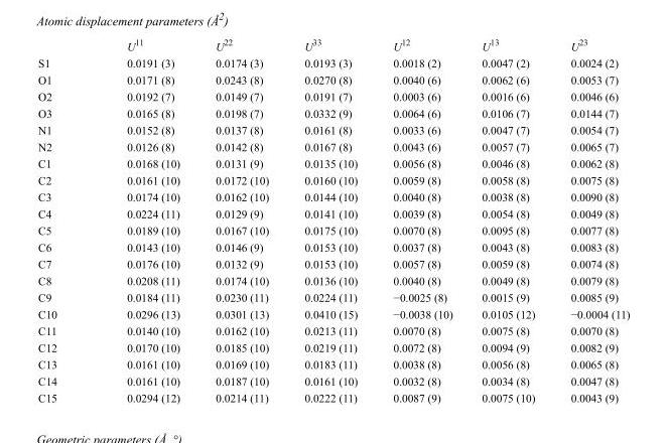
<table><thead><tr><td></td><td>U<sup>11</sup></td><td>U<sup>22</sup></td><td>U<sup>33</sup></td><td>U<sup>12</sup></td><td>U<sup>13</sup></td><td>U<sup>23</sup></td></tr></thead><tbody><tr><td>S1</td><td>0.0191 (3)</td><td>0.0174 (3)</td><td>0.0193 (3)</td><td>0.0018 (2)</td><td>0.0047 (2)</td><td>0.0024 (2)</td></tr><tr><td>O1</td><td>0.0171 (8)</td><td>0.0243 (8)</td><td>0.0270 (8)</td><td>0.0040 (6)</td><td>0.0062 (6)</td><td>0.0053 (7)</td></tr><tr><td>O2</td><td>0.0192 (7)</td><td>0.0149 (7)</td><td>0.0191 (7)</td><td>0.0003 (6)</td><td>0.0016 (6)</td><td>0.0046 (6)</td></tr><tr><td>O3</td><td>0.0165 (8)</td><td>0.0198 (7)</td><td>0.0332 (9)</td><td>0.0064 (6)</td><td>0.0106 (7)</td><td>0.0144 (7)</td></tr><tr><td>N1</td><td>0.0152 (8)</td><td>0.0137 (8)</td><td>0.0161 (8)</td><td>0.0033 (6)</td><td>0.0047 (7)</td><td>0.0054 (7)</td></tr><tr><td>N2</td><td>0.0126 (8)</td><td>0.0142 (8)</td><td>0.0167 (8)</td><td>0.0043 (6)</td><td>0.0057 (7)</td><td>0.0065 (7)</td></tr><tr><td>C1</td><td>0.0168 (10)</td><td>0.0131 (9)</td><td>0.0135 (10)</td><td>0.0056 (8)</td><td>0.0046 (8)</td><td>0.0062 (8)</td></tr><tr><td>C2</td><td>0.0161 (10)</td><td>0.0172 (10)</td><td>0.0160 (10)</td><td>0.0059 (8)</td><td>0.0058 (8)</td><td>0.0075 (8)</td></tr><tr><td>C3</td><td>0.0174 (10)</td><td>0.0162 (10)</td><td>0.0144 (10)</td><td>0.0040 (8)</td><td>0.0038 (8)</td><td>0.0090 (8)</td></tr><tr><td>C4</td><td>0.0224 (11)</td><td>0.0129 (9)</td><td>0.0141 (10)</td><td>0.0039 (8)</td><td>0.0054 (8)</td><td>0.0049 (8)</td></tr><tr><td>C5</td><td>0.0189 (10)</td><td>0.0167 (10)</td><td>0.0175 (10)</td><td>0.0070 (8)</td><td>0.0095 (8)</td><td>0.0077 (8)</td></tr><tr><td>C6</td><td>0.0143 (10)</td><td>0.0146 (9)</td><td>0.0153 (10)</td><td>0.0037 (8)</td><td>0.0043 (8)</td><td>0.0083 (8)</td></tr><tr><td>C7</td><td>0.0176 (10)</td><td>0.0132 (9)</td><td>0.0153 (10)</td><td>0.0057 (8)</td><td>0.0059 (8)</td><td>0.0074 (8)</td></tr><tr><td>C8</td><td>0.0208 (11)</td><td>0.0174 (10)</td><td>0.0136 (10)</td><td>0.0040 (8)</td><td>0.0049 (8)</td><td>0.0079 (8)</td></tr><tr><td>C9</td><td>0.0184 (11)</td><td>0.0230 (11)</td><td>0.0224 (11)</td><td>−0.0025 (8)</td><td>0.0015 (9)</td><td>0.0085 (9)</td></tr><tr><td>C10</td><td>0.0296 (13)</td><td>0.0301 (13)</td><td>0.0410 (15)</td><td>−0.0038 (10)</td><td>0.0105 (12)</td><td>−0.0004 (11)</td></tr><tr><td>C11</td><td>0.0140 (10)</td><td>0.0162 (10)</td><td>0.0213 (11)</td><td>0.0070 (8)</td><td>0.0075 (8)</td><td>0.0070 (8)</td></tr><tr><td>C12</td><td>0.0170 (10)</td><td>0.0185 (10)</td><td>0.0219 (11)</td><td>0.0072 (8)</td><td>0.0094 (9)</td><td>0.0082 (9)</td></tr><tr><td>C13</td><td>0.0161 (10)</td><td>0.0169 (10)</td><td>0.0183 (11)</td><td>0.0038 (8)</td><td>0.0056 (8)</td><td>0.0065 (8)</td></tr><tr><td>C14</td><td>0.0161 (10)</td><td>0.0187 (10)</td><td>0.0161 (10)</td><td>0.0032 (8)</td><td>0.0034 (8)</td><td>0.0047 (8)</td></tr><tr><td>C15</td><td>0.0294 (12)</td><td>0.0214 (11)</td><td>0.0222 (11)</td><td>0.0087 (9)</td><td>0.0075 (10)</td><td>0.0043 (9)</td></tr></tbody></table>